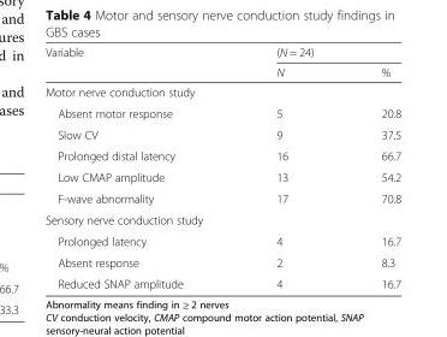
<table><thead><tr><td rowspan="2">Variable</td><td colspan="2">(N = 24)</td></tr><tr><td>N</td><td>%</td></tr></thead><tbody><tr><td colspan="3">Motor nerve conduction study</td></tr><tr><td>Absent motor response</td><td>5</td><td>20.8</td></tr><tr><td>Slow CV</td><td>9</td><td>37.5</td></tr><tr><td>Prolonged distal latency</td><td>16</td><td>66.7</td></tr><tr><td>Low CMAP amplitude</td><td>13</td><td>54.2</td></tr><tr><td>F-wave abnormality</td><td>17</td><td>70.8</td></tr><tr><td colspan="3">Sensory nerve conduction study</td></tr><tr><td>Prolonged latency</td><td>4</td><td>16.7</td></tr><tr><td>Absent response</td><td>2</td><td>8.3</td></tr><tr><td>Reduced SNAP amplitude</td><td>4</td><td>16.7</td></tr></tbody></table>